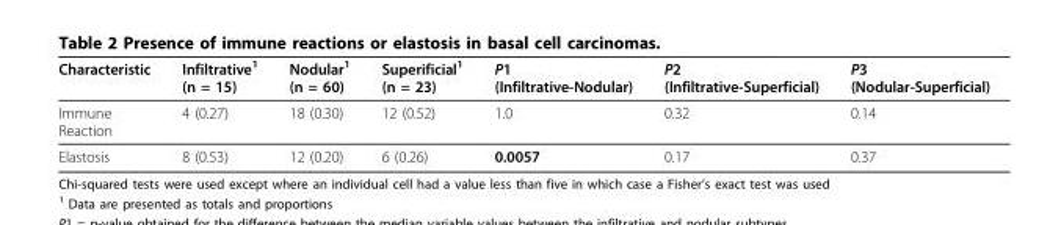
<table><thead><tr><td>Characteristic</td><td>Infiltrative<sup>1</sup> (n = 15)</td><td>Nodular<sup>1</sup> (n = 60)</td><td>Superificial<sup>1</sup> (n = 23)</td><td>P1 (Infiltrative-Nodular)</td><td>P2 (Infiltrative-Superficial)</td><td>P3 (Nodular-Superficial)</td></tr></thead><tbody><tr><td>Immune Reaction</td><td>4 (0.27)</td><td>18 (0.30)</td><td>12 (0.52)</td><td>1.0</td><td>0.32</td><td>0.14</td></tr><tr><td>Elastosis</td><td>8 (0.53)</td><td>12 (0.20)</td><td>6 (0.26)</td><td>0.0057</td><td>0.17</td><td>0.37</td></tr></tbody></table>